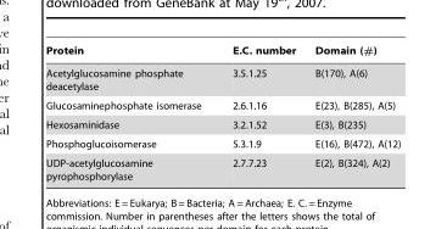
<table><thead><tr><td>Protein</td><td>E.C. number</td><td>Domain (#)</td></tr></thead><tbody><tr><td>Acetylglucosamine phosphate deacetylase</td><td>3.5.1.25</td><td>B(170), A(6)</td></tr><tr><td>Glucosaminephosphate isomerase</td><td>2.6.1.16</td><td>E(23), B(285), A(5)</td></tr><tr><td>Hexosaminidase</td><td>3.2.1.52</td><td>E(3), B(235)</td></tr><tr><td>Phosphoglucoisomerase</td><td>5.3.1.9</td><td>E(16), B(472), A(12)</td></tr><tr><td>UDP-acetylglucosamine pyrophosphorylase</td><td>2.7.7.23</td><td>E(2), B(324), A(2)</td></tr></tbody></table>